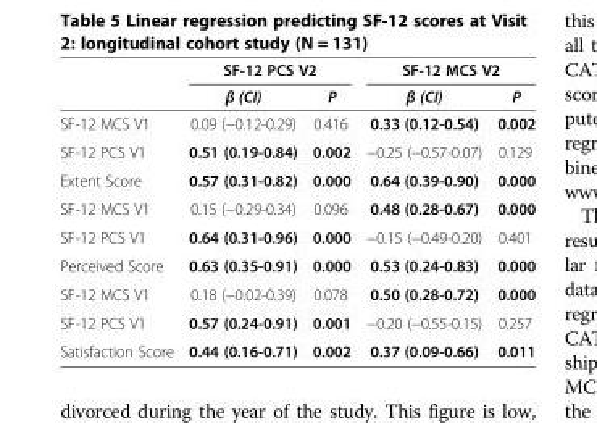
<table><thead><tr><td rowspan="2"></td><td colspan="2">SF-12 PCS V2</td><td colspan="2">SF-12 MCS V2</td></tr><tr><td>β (CI)</td><td>P</td><td>β (CI)</td><td>P</td></tr></thead><tbody><tr><td>SF-12 MCS V1</td><td>0.09 (−0.12-0.29)</td><td>0.416</td><td>0.33 (0.12-0.54)</td><td>0.002</td></tr><tr><td>SF-12 PCS V1</td><td>0.51 (0.19-0.84)</td><td>0.002</td><td>−0.25 (−0.57-0.07)</td><td>0.129</td></tr><tr><td>Extent Score</td><td>0.57 (0.31-0.82)</td><td>0.000</td><td>0.64 (0.39-0.90)</td><td>0.000</td></tr><tr><td>SF-12 MCS V1</td><td>0.15 (−0.29-0.34)</td><td>0.096</td><td>0.48 (0.28-0.67)</td><td>0.000</td></tr><tr><td>SF-12 PCS V1</td><td>0.64 (0.31-0.96)</td><td>0.000</td><td>−0.15 (−0.49-0.20)</td><td>0.401</td></tr><tr><td>Perceived Score</td><td>0.63 (0.35-0.91)</td><td>0.000</td><td>0.53 (0.24-0.83)</td><td>0.000</td></tr><tr><td>SF-12 MCS V1</td><td>0.18 (−0.02-0.39)</td><td>0.078</td><td>0.50 (0.28-0.72)</td><td>0.000</td></tr><tr><td>SF-12 PCS V1</td><td>0.57 (0.24-0.91)</td><td>0.001</td><td>−0.20 (−0.55-0.15)</td><td>0.257</td></tr><tr><td>Satisfaction Score</td><td>0.44 (0.16-0.71)</td><td>0.002</td><td>0.37 (0.09-0.66)</td><td>0.011</td></tr></tbody></table>